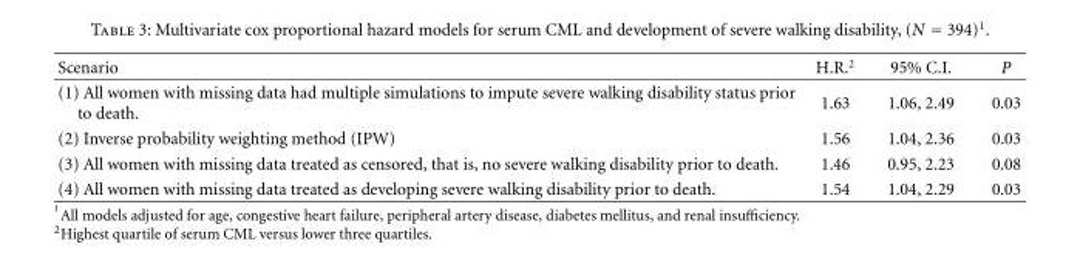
<table><thead><tr><td>Scenario</td><td>H.R.<sup>2</sup></td><td>95% C.I.</td><td>P</td></tr></thead><tbody><tr><td>(1) All women with missing data had multiple simulations to impute severe walking disability status prior to death.</td><td>1.63</td><td>1.06, 2.49</td><td>0.03</td></tr><tr><td>(2) Inverse probability weighting method (IPW)</td><td>1.56</td><td>1.04, 2.36</td><td>0.03</td></tr><tr><td>(3) All women with missing data treated as censored, that is, no severe walking disability prior to death.</td><td>1.46</td><td>0.95, 2.23</td><td>0.08</td></tr><tr><td>(4) All women with missing data treated as developing severe walking disability prior to death.</td><td>1.54</td><td>1.04, 2.29</td><td>0.03</td></tr></tbody></table>